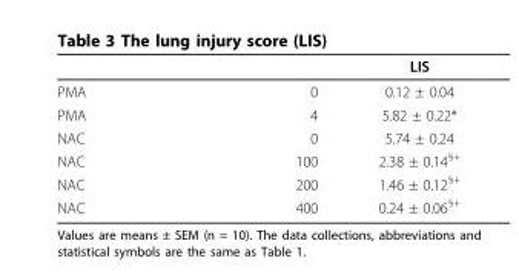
<table><thead><tr><td></td><td></td><td>LIS</td></tr></thead><tbody><tr><td>PMA</td><td>0</td><td>0.12 ± 0.04</td></tr><tr><td>PMA</td><td>4</td><td>5.82 ± 0.22*</td></tr><tr><td>NAC</td><td>0</td><td>5.74 ± 0.24</td></tr><tr><td>NAC</td><td>100</td><td>2.38 ± 0.14<sup>§+</sup></td></tr><tr><td>NAC</td><td>200</td><td>1.46 ± 0.12<sup>§+</sup></td></tr><tr><td>NAC</td><td>400</td><td>0.24 ± 0.06<sup>§+</sup></td></tr></tbody></table>